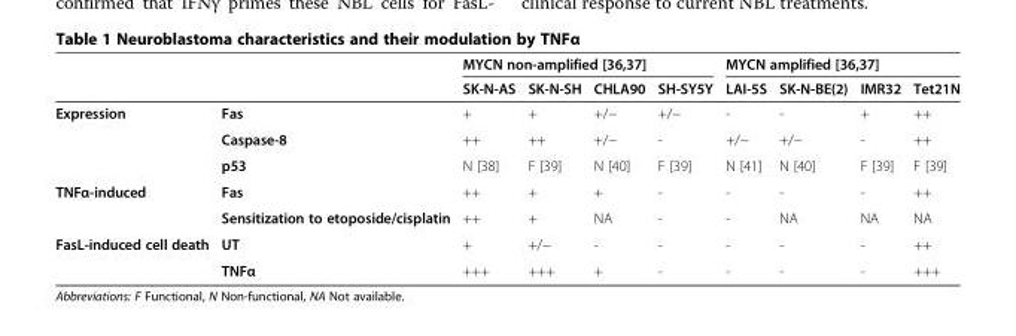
<table><thead><tr><td rowspan="2"></td><td rowspan="2"></td><td colspan="4">MYCN non-amplified [36,37]</td><td colspan="4">MYCN amplified [36,37]</td></tr><tr><td>SK-N-AS</td><td>SK-N-SH</td><td>CHLA90</td><td>SH-SY5Y</td><td>LAI-5S</td><td>SK-N-BE(2)</td><td>IMR32</td><td>Tet21N</td></tr></thead><tbody><tr><td rowspan="3">Expression</td><td>Fas</td><td>+</td><td>+</td><td>+/−</td><td>+/−</td><td>-</td><td>-</td><td>+</td><td>++</td></tr><tr><td>Caspase-8</td><td>++</td><td>++</td><td>+/−</td><td>-</td><td>+/−</td><td>+/−</td><td>-</td><td>++</td></tr><tr><td>p53</td><td>N [38]</td><td>F [39]</td><td>N [40]</td><td>F [39]</td><td>N [41]</td><td>N [40]</td><td>F [39]</td><td>F [39]</td></tr><tr><td rowspan="2">TNFα-induced</td><td>Fas</td><td>++</td><td>+</td><td>+</td><td>-</td><td>-</td><td>-</td><td>-</td><td>++</td></tr><tr><td>Sensitization to etoposide/cisplatin</td><td>++</td><td>+</td><td>NA</td><td>-</td><td>-</td><td>NA</td><td>NA</td><td>NA</td></tr><tr><td rowspan="2">FasL-induced cell death</td><td>UT</td><td>+</td><td>+/−</td><td>-</td><td>-</td><td>-</td><td>-</td><td>-</td><td>++</td></tr><tr><td>TNFα</td><td>+++</td><td>+++</td><td>+</td><td>-</td><td>-</td><td>-</td><td>-</td><td>+++</td></tr></tbody></table>